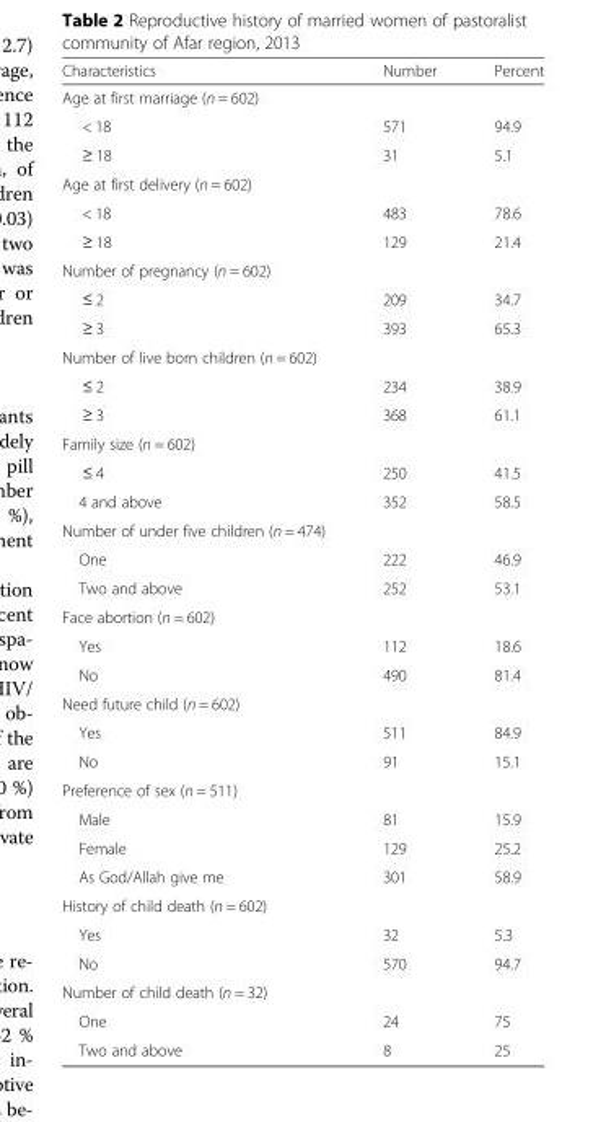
<table><thead><tr><td>Characteristics</td><td>Number</td><td>Percent</td></tr></thead><tbody><tr><td colspan="3">Age at first marriage (n = 602)</td></tr><tr><td>&lt; 18</td><td>571</td><td>94.9</td></tr><tr><td>≥ 18</td><td>31</td><td>5.1</td></tr><tr><td colspan="3">Age at first delivery (n = 602)</td></tr><tr><td>&lt; 18</td><td>483</td><td>78.6</td></tr><tr><td>≥ 18</td><td>129</td><td>21.4</td></tr><tr><td colspan="3">Number of pregnancy (n = 602)</td></tr><tr><td>≤ 2</td><td>209</td><td>34.7</td></tr><tr><td>≥ 3</td><td>393</td><td>65.3</td></tr><tr><td colspan="3">Number of live born children (n = 602)</td></tr><tr><td>≤ 2</td><td>234</td><td>38.9</td></tr><tr><td>≥ 3</td><td>368</td><td>61.1</td></tr><tr><td colspan="3">Family size (n = 602)</td></tr><tr><td>≤ 4</td><td>250</td><td>41.5</td></tr><tr><td>4 and above</td><td>352</td><td>58.5</td></tr><tr><td colspan="3">Number of under five children (n = 474)</td></tr><tr><td>One</td><td>222</td><td>46.9</td></tr><tr><td>Two and above</td><td>252</td><td>53.1</td></tr><tr><td colspan="3">Face abortion (n = 602)</td></tr><tr><td>Yes</td><td>112</td><td>18.6</td></tr><tr><td>No</td><td>490</td><td>81.4</td></tr><tr><td colspan="3">Need future child (n = 602)</td></tr><tr><td>Yes</td><td>511</td><td>84.9</td></tr><tr><td>No</td><td>91</td><td>15.1</td></tr><tr><td colspan="3">Preference of sex (n = 511)</td></tr><tr><td>Male</td><td>81</td><td>15.9</td></tr><tr><td>Female</td><td>129</td><td>25.2</td></tr><tr><td>As God/Allah give me</td><td>301</td><td>58.9</td></tr><tr><td colspan="3">History of child death (n = 602)</td></tr><tr><td>Yes</td><td>32</td><td>5.3</td></tr><tr><td>No</td><td>570</td><td>94.7</td></tr><tr><td colspan="3">Number of child death (n = 32)</td></tr><tr><td>One</td><td>24</td><td>75</td></tr><tr><td>Two and above</td><td>8</td><td>25</td></tr></tbody></table>